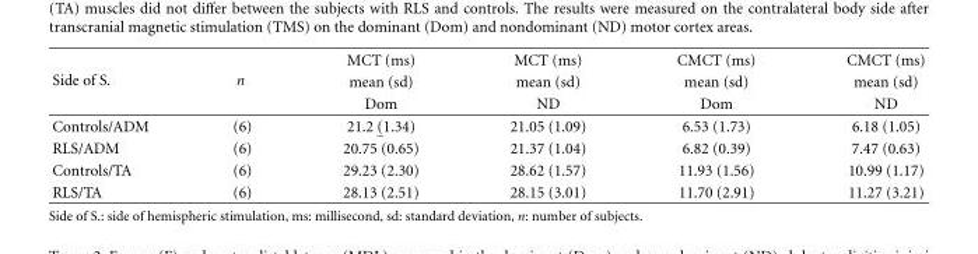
<table><thead><tr><td rowspan="3">Side of S.</td><td rowspan="3">n</td><td rowspan="3">MCT (ms) mean (sd) Dom</td><td rowspan="3">MCT (ms) mean (sd) ND</td><td rowspan="3">CMCT (ms) mean (sd) Dom</td><td rowspan="3">CMCT (ms) mean (sd) ND</td></tr><tr></tr><tr></tr></thead><tbody><tr><td>Controls/ADM</td><td>(6)</td><td>21.2 (1.34)</td><td>21.05 (1.09)</td><td>6.53 (1.73)</td><td>6.18 (1.05)</td></tr><tr><td>RLS/ADM</td><td>(6)</td><td>20.75 (0.65)</td><td>21.37 (1.04)</td><td>6.82 (0.39)</td><td>7.47 (0.63)</td></tr><tr><td>Controls/TA</td><td>(6)</td><td>29.23 (2.30)</td><td>28.62 (1.57)</td><td>11.93 (1.56)</td><td>10.99 (1.17)</td></tr><tr><td>RLS/TA</td><td>(6)</td><td>28.13 (2.51)</td><td>28.15 (3.01)</td><td>11.70 (2.91)</td><td>11.27 (3.21)</td></tr></tbody></table>